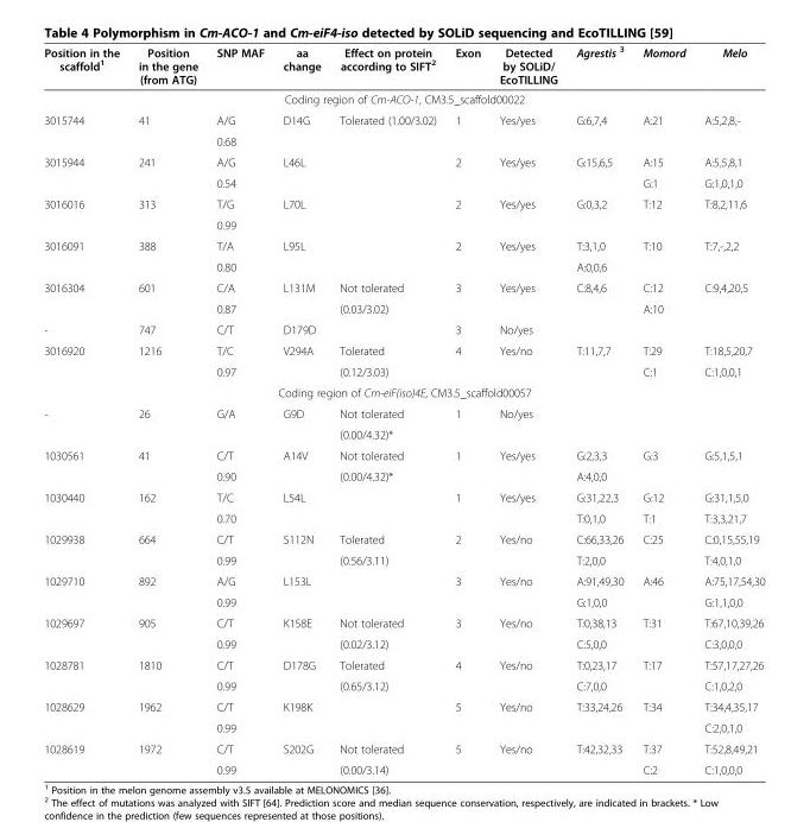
<table><thead><tr><td>Position in the scaffold<sup>1</sup></td><td>Position in the gene (from ATG)</td><td>SNP MAF</td><td>aa change</td><td>Effect on protein according to SIFT<sup>2</sup></td><td>Exon</td><td>Detected by SOLiD/ EcoTILLING</td><td>Agrestis <sup>3</sup></td><td>Momord</td><td>Melo</td></tr></thead><tbody><tr><td colspan="10">Coding region of Cm-ACO-1, CM3.5_scaffold00022</td></tr><tr><td rowspan="2">3015744</td><td>41</td><td>A/G</td><td>D14G</td><td>Tolerated (1.00/3.02)</td><td>1</td><td>Yes/yes</td><td>G:6,7,4</td><td>A:21</td><td>A:5,2,8,-</td></tr><tr><td></td><td>0.68</td><td></td><td></td><td></td><td></td><td></td><td></td><td></td></tr><tr><td rowspan="2">3015944</td><td>241</td><td>A/G</td><td>L46L</td><td></td><td>2</td><td>Yes/yes</td><td>G:15,6,5</td><td>A:15</td><td>A:5,5,8,1</td></tr><tr><td></td><td>0.54</td><td></td><td></td><td></td><td></td><td></td><td>G:1</td><td>G:1,0,1,0</td></tr><tr><td rowspan="2">3016016</td><td>313</td><td>T/G</td><td>L70L</td><td></td><td>2</td><td>Yes/yes</td><td>G:0,3,2</td><td>T:12</td><td>T:8,2,11,6</td></tr><tr><td></td><td>0.99</td><td></td><td></td><td></td><td></td><td></td><td></td><td></td></tr><tr><td rowspan="2">3016091</td><td>388</td><td>T/A</td><td>L95L</td><td></td><td>2</td><td>Yes/yes</td><td>T:3,1,0</td><td>T:10</td><td>T:7,-,2,2</td></tr><tr><td></td><td>0.80</td><td></td><td></td><td></td><td></td><td>A:0,0,6</td><td></td><td></td></tr><tr><td rowspan="2">3016304</td><td>601</td><td>C/A</td><td>L131M</td><td>Not tolerated</td><td>3</td><td>Yes/yes</td><td>C:8,4,6</td><td>C:12</td><td>C:9,4,20,5</td></tr><tr><td></td><td>0.87</td><td></td><td>(0.03/3.02)</td><td></td><td></td><td></td><td>A:10</td><td></td></tr><tr><td>-</td><td>747</td><td>C/T</td><td>D179D</td><td></td><td>3</td><td>No/yes</td><td></td><td></td><td></td></tr><tr><td rowspan="2">3016920</td><td>1216</td><td>T/C</td><td>V294A</td><td>Tolerated</td><td>4</td><td>Yes/no</td><td>T:11,7,7</td><td>T:29</td><td>T:18,5,20,7</td></tr><tr><td></td><td>0.97</td><td></td><td>(0.12/3.03)</td><td></td><td></td><td></td><td>C:1</td><td>C:1,0,0,1</td></tr><tr><td colspan="10">Coding region of Cm-eiF(iso)4E, CM3.5_scaffold00057</td></tr><tr><td rowspan="2">-</td><td>26</td><td>G/A</td><td>G9D</td><td>Not tolerated</td><td>1</td><td>No/yes</td><td></td><td></td><td></td></tr><tr><td></td><td></td><td></td><td>(0.00/4.32)*</td><td></td><td></td><td></td><td></td><td></td></tr><tr><td rowspan="2">1030561</td><td>41</td><td>C/T</td><td>A14V</td><td>Not tolerated</td><td>1</td><td>Yes/yes</td><td>G:2,3,3</td><td>G:3</td><td>G:5,1,5,1</td></tr><tr><td></td><td>0.90</td><td></td><td>(0.00/4.32)*</td><td></td><td></td><td>A:4,0,0</td><td></td><td></td></tr><tr><td rowspan="2">1030440</td><td>162</td><td>T/C</td><td>L54L</td><td></td><td>1</td><td>Yes/yes</td><td>G:31,22,3</td><td>G:12</td><td>G:31,1,5,0</td></tr><tr><td></td><td>0.70</td><td></td><td></td><td></td><td></td><td>T:0,1,0</td><td>T:1</td><td>T:3,3,21,7</td></tr><tr><td rowspan="2">1029938</td><td>664</td><td>C/T</td><td>S112N</td><td>Tolerated</td><td>2</td><td>Yes/no</td><td>C:66,33,26</td><td>C:25</td><td>C:0,15,55,19</td></tr><tr><td></td><td>0.99</td><td></td><td>(0.56/3.11)</td><td></td><td></td><td>T:2,0,0</td><td></td><td>T:4,0,1,0</td></tr><tr><td rowspan="2">1029710</td><td>892</td><td>A/G</td><td>L153L</td><td></td><td>3</td><td>Yes/no</td><td>A:91,49,30</td><td>A:46</td><td>A:75,17,54,30</td></tr><tr><td></td><td>0.99</td><td></td><td></td><td></td><td></td><td>G:1,0,0</td><td></td><td>G:1,1,0,0</td></tr><tr><td rowspan="2">1029697</td><td>905</td><td>C/T</td><td>K158E</td><td>Not tolerated</td><td>3</td><td>Yes/no</td><td>T:0,38,13</td><td>T:31</td><td>T:67,10,39,26</td></tr><tr><td></td><td>0.99</td><td></td><td>(0.02/3.12)</td><td></td><td></td><td>C:5,0,0</td><td></td><td>C:3,0,0,0</td></tr><tr><td rowspan="2">1028781</td><td>1810</td><td>C/T</td><td>D178G</td><td>Tolerated</td><td>4</td><td>Yes/no</td><td>T:0,23,17</td><td>T:17</td><td>T:57,17,27,26</td></tr><tr><td></td><td>0.99</td><td></td><td>(0.65/3.12)</td><td></td><td></td><td>C:7,0,0</td><td></td><td>C:1,0,2,0</td></tr><tr><td rowspan="2">1028629</td><td>1962</td><td>C/T</td><td>K198K</td><td></td><td>5</td><td>Yes/no</td><td>T:33,24,26</td><td>T:34</td><td>T:34,4,35,17</td></tr><tr><td></td><td>0.99</td><td></td><td></td><td></td><td></td><td></td><td></td><td>C:2,0,1,0</td></tr><tr><td rowspan="2">1028619</td><td>1972</td><td>C/T</td><td>S202G</td><td>Not tolerated</td><td>5</td><td>Yes/no</td><td>T:42,32,33</td><td>T:37</td><td>T:52,8,49,21</td></tr><tr><td></td><td>0.99</td><td></td><td>(0.00/3.14)</td><td></td><td></td><td></td><td>C:2</td><td>C:1,0,0,0</td></tr></tbody></table>